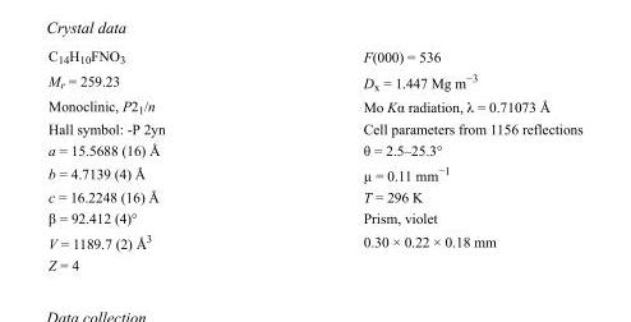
<table><tbody><tr><td>C<sub>14</sub>H<sub>10</sub>FNO<sub>3</sub></td><td>F(000) = 536</td></tr><tr><td>M<sub>r</sub> = 259.23</td><td>D<sub>x</sub> = 1.447 Mg m<sup>−3</sup></td></tr><tr><td>Monoclinic, P2<sub>1</sub>/n</td><td>Mo Kα radiation, λ = 0.71073 Å</td></tr><tr><td>Hall symbol: -P 2yn</td><td>Cell parameters from 1156 reflections</td></tr><tr><td>a = 15.5688 (16) Å</td><td>θ = 2.5–25.3°</td></tr><tr><td>b = 4.7139 (4) Å</td><td>µ = 0.11 mm<sup>−1</sup></td></tr><tr><td>c = 16.2248 (16) Å</td><td>T = 296 K</td></tr><tr><td>β = 92.412 (4)°</td><td>Prism, violet</td></tr><tr><td>V = 1189.7 (2) Å<sup>3</sup></td><td>0.30 × 0.22 × 0.18 mm</td></tr><tr><td>Z = 4</td><td></td></tr></tbody></table>